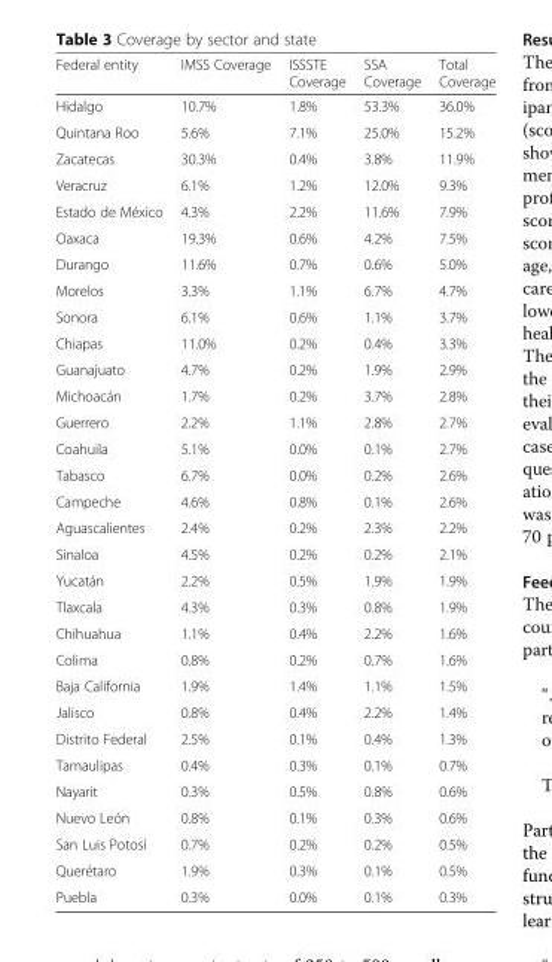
<table><thead><tr><td>Federal entity</td><td>IMSS Coverage</td><td>ISSSTE Coverage</td><td>SSA Coverage</td><td>Total Coverage</td></tr></thead><tbody><tr><td>Hidalgo</td><td>10.7%</td><td>1.8%</td><td>53.3%</td><td>36.0%</td></tr><tr><td>Quintana Roo</td><td>5.6%</td><td>7.1%</td><td>25.0%</td><td>15.2%</td></tr><tr><td>Zacatecas</td><td>30.3%</td><td>0.4%</td><td>3.8%</td><td>11.9%</td></tr><tr><td>Veracruz</td><td>6.1%</td><td>1.2%</td><td>12.0%</td><td>9.3%</td></tr><tr><td>Estado de México</td><td>4.3%</td><td>2.2%</td><td>11.6%</td><td>7.9%</td></tr><tr><td>Oaxaca</td><td>19.3%</td><td>0.6%</td><td>4.2%</td><td>7.5%</td></tr><tr><td>Durango</td><td>11.6%</td><td>0.7%</td><td>0.6%</td><td>5.0%</td></tr><tr><td>Morelos</td><td>3.3%</td><td>1.1%</td><td>6.7%</td><td>4.7%</td></tr><tr><td>Sonora</td><td>6.1%</td><td>0.6%</td><td>1.1%</td><td>3.7%</td></tr><tr><td>Chiapas</td><td>11.0%</td><td>0.2%</td><td>0.4%</td><td>3.3%</td></tr><tr><td>Guanajuato</td><td>4.7%</td><td>0.2%</td><td>1.9%</td><td>2.9%</td></tr><tr><td>Michoacán</td><td>1.7%</td><td>0.2%</td><td>3.7%</td><td>2.8%</td></tr><tr><td>Guerrero</td><td>2.2%</td><td>1.1%</td><td>2.8%</td><td>2.7%</td></tr><tr><td>Coahuila</td><td>5.1%</td><td>0.0%</td><td>0.1%</td><td>2.7%</td></tr><tr><td>Tabasco</td><td>6.7%</td><td>0.0%</td><td>0.2%</td><td>2.6%</td></tr><tr><td>Campeche</td><td>4.6%</td><td>0.8%</td><td>0.1%</td><td>2.6%</td></tr><tr><td>Aguascalientes</td><td>2.4%</td><td>0.2%</td><td>2.3%</td><td>2.2%</td></tr><tr><td>Sinaloa</td><td>4.5%</td><td>0.2%</td><td>0.2%</td><td>2.1%</td></tr><tr><td>Yucatán</td><td>2.2%</td><td>0.5%</td><td>1.9%</td><td>1.9%</td></tr><tr><td>Tlaxcala</td><td>4.3%</td><td>0.3%</td><td>0.8%</td><td>1.9%</td></tr><tr><td>Chihuahua</td><td>1.1%</td><td>0.4%</td><td>2.2%</td><td>1.6%</td></tr><tr><td>Colima</td><td>0.8%</td><td>0.2%</td><td>0.7%</td><td>1.6%</td></tr><tr><td>Baja California</td><td>1.9%</td><td>1.4%</td><td>1.1%</td><td>1.5%</td></tr><tr><td>Jalisco</td><td>0.8%</td><td>0.4%</td><td>2.2%</td><td>1.4%</td></tr><tr><td>Distrito Federal</td><td>2.5%</td><td>0.1%</td><td>0.4%</td><td>1.3%</td></tr><tr><td>Tamaulipas</td><td>0.4%</td><td>0.3%</td><td>0.1%</td><td>0.7%</td></tr><tr><td>Nayarit</td><td>0.3%</td><td>0.5%</td><td>0.8%</td><td>0.6%</td></tr><tr><td>Nuevo León</td><td>0.8%</td><td>0.1%</td><td>0.3%</td><td>0.6%</td></tr><tr><td>San Luis Potosí</td><td>0.7%</td><td>0.2%</td><td>0.2%</td><td>0.5%</td></tr><tr><td>Querétaro</td><td>1.9%</td><td>0.3%</td><td>0.1%</td><td>0.5%</td></tr><tr><td>Puebla</td><td>0.3%</td><td>0.0%</td><td>0.1%</td><td>0.3%</td></tr></tbody></table>